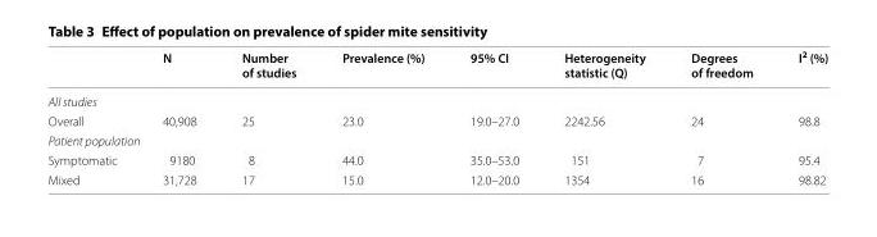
<table><thead><tr><td></td><td>N</td><td>Number of studies</td><td>Prevalence (%)</td><td>95% CI</td><td>Heterogeneity statistic (Q)</td><td>Degrees of freedom</td><td>I<sup>2</sup> (%)</td></tr></thead><tbody><tr><td colspan="8">All studies</td></tr><tr><td>Overall</td><td>40,908</td><td>25</td><td>23.0</td><td>19.0–27.0</td><td>2242.56</td><td>24</td><td>98.8</td></tr><tr><td colspan="8">Patient population</td></tr><tr><td>Symptomatic</td><td>9180</td><td>8</td><td>44.0</td><td>35.0–53.0</td><td>151</td><td>7</td><td>95.4</td></tr><tr><td>Mixed</td><td>31,728</td><td>17</td><td>15.0</td><td>12.0–20.0</td><td>1354</td><td>16</td><td>98.82</td></tr></tbody></table>